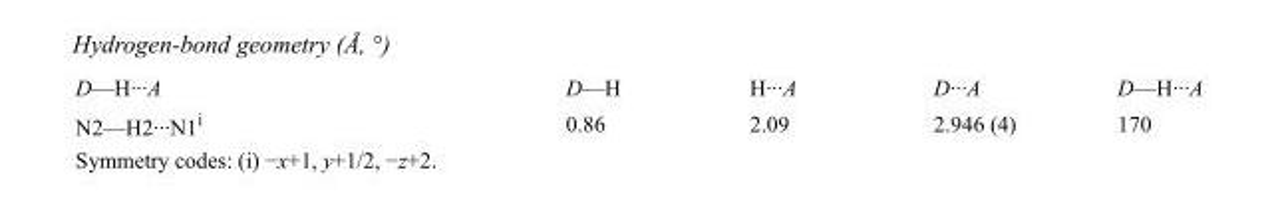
<table><tbody><tr><td>D—H···A</td><td>D—H</td><td>H···A</td><td>D···A</td><td>D—H···A</td></tr><tr><td>N2—H2···N1<sup>i</sup></td><td>0.86</td><td>2.09</td><td>2.946 (4)</td><td>170</td></tr></tbody></table>